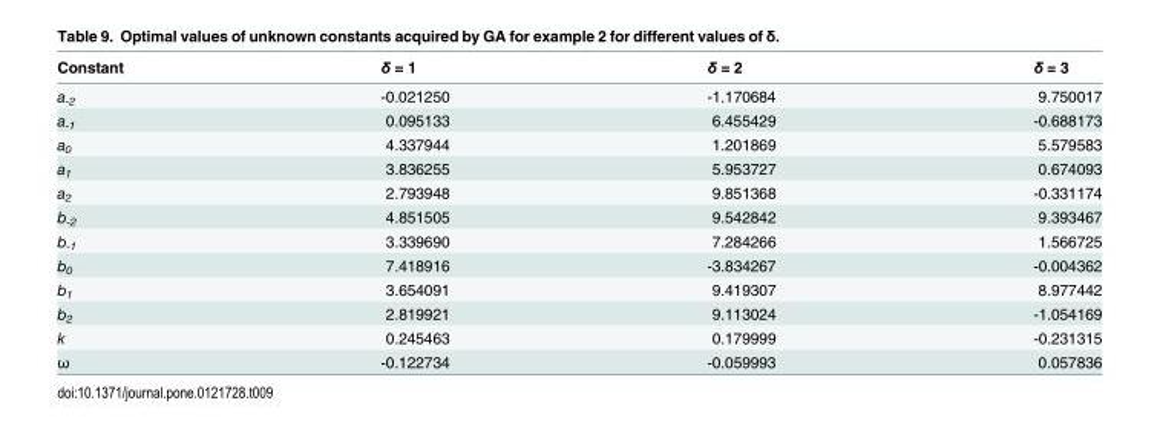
<table><thead><tr><td>Constant</td><td>δ = 1</td><td>δ = 2</td><td>δ = 3</td></tr></thead><tbody><tr><td>a<sub>-2</sub></td><td>-0.021250</td><td>-1.170684</td><td>9.750017</td></tr><tr><td>a<sub>-1</sub></td><td>0.095133</td><td>6.455429</td><td>-0.688173</td></tr><tr><td>a<sub>0</sub></td><td>4.337944</td><td>1.201869</td><td>5.579583</td></tr><tr><td>a<sub>1</sub></td><td>3.836255</td><td>5.953727</td><td>0.674093</td></tr><tr><td>a<sub>2</sub></td><td>2.793948</td><td>9.851368</td><td>-0.331174</td></tr><tr><td>b<sub>-2</sub></td><td>4.851505</td><td>9.542842</td><td>9.393467</td></tr><tr><td>b<sub>-1</sub></td><td>3.339690</td><td>7.284266</td><td>1.566725</td></tr><tr><td>b<sub>0</sub></td><td>7.418916</td><td>-3.834267</td><td>-0.004362</td></tr><tr><td>b<sub>1</sub></td><td>3.654091</td><td>9.419307</td><td>8.977442</td></tr><tr><td>b<sub>2</sub></td><td>2.819921</td><td>9.113024</td><td>-1.054169</td></tr><tr><td>k</td><td>0.245463</td><td>0.179999</td><td>-0.231315</td></tr><tr><td>ω</td><td>-0.122734</td><td>-0.059993</td><td>0.057836</td></tr></tbody></table>